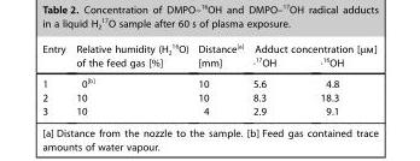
<table><thead><tr><td rowspan="2">Entry</td><td rowspan="2">Relative humidity (H<sub>2</sub> <sup>16</sup>O) of the feed gas [%]</td><td rowspan="2">Distance<sup>[a]</sup> [mm]</td><td colspan="2">Adduct concentration [μm]</td></tr><tr><td>·17OH</td><td>·16OH</td></tr></thead><tbody><tr><td>1</td><td>0<sup>[b]</sup></td><td>10</td><td>5.6</td><td>4.8</td></tr><tr><td>2</td><td>10</td><td>10</td><td>8.3</td><td>18.3</td></tr><tr><td>3</td><td>10</td><td>4</td><td>2.9</td><td>9.1</td></tr></tbody></table>